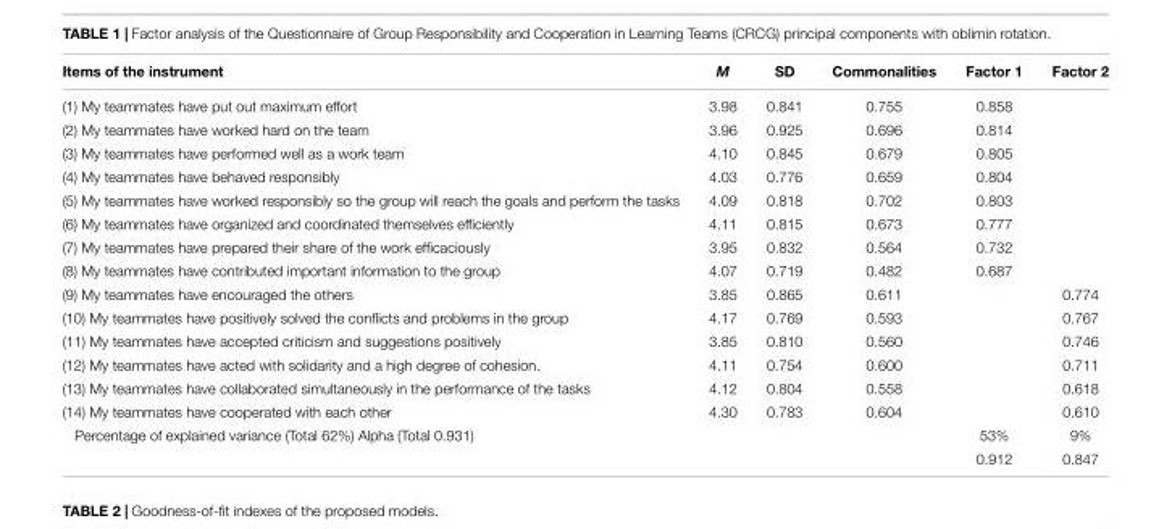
<table><thead><tr><td>Items of the instrument</td><td>M</td><td>SD</td><td>Commonalities</td><td>Factor 1</td><td>Factor 2</td></tr></thead><tbody><tr><td>(1) My teammates have put out maximum effort</td><td>3.98</td><td>0.841</td><td>0.755</td><td>0.858</td><td></td></tr><tr><td>(2) My teammates have worked hard on the team</td><td>3.96</td><td>0.925</td><td>0.696</td><td>0.814</td><td></td></tr><tr><td>(3) My teammates have performed well as a work team</td><td>4.10</td><td>0.845</td><td>0.679</td><td>0.805</td><td></td></tr><tr><td>(4) My teammates have behaved responsibly</td><td>4.03</td><td>0.776</td><td>0.659</td><td>0.804</td><td></td></tr><tr><td>(5) My teammates have worked responsibly so the group will reach the goals and perform the tasks</td><td>4.09</td><td>0.818</td><td>0.702</td><td>0.803</td><td></td></tr><tr><td>(6) My teammates have organized and coordinated themselves efficiently</td><td>4.11</td><td>0.815</td><td>0.673</td><td>0.777</td><td></td></tr><tr><td>(7) My teammates have prepared their share of the work efficaciously</td><td>3.95</td><td>0.832</td><td>0.564</td><td>0.732</td><td></td></tr><tr><td>(8) My teammates have contributed important information to the group</td><td>4.07</td><td>0.719</td><td>0.482</td><td>0.687</td><td></td></tr><tr><td>(9) My teammates have encouraged the others</td><td>3.85</td><td>0.865</td><td>0.611</td><td></td><td>0.774</td></tr><tr><td>(10) My teammates have positively solved the conflicts and problems in the group</td><td>4.17</td><td>0.769</td><td>0.593</td><td></td><td>0.767</td></tr><tr><td>(11) My teammates have accepted criticism and suggestions positively</td><td>3.85</td><td>0.810</td><td>0.560</td><td></td><td>0.746</td></tr><tr><td>(12) My teammates have acted with solidarity and a high degree of cohesion.</td><td>4.11</td><td>0.754</td><td>0.600</td><td></td><td>0.711</td></tr><tr><td>(13) My teammates have collaborated simultaneously in the performance of the tasks</td><td>4.12</td><td>0.804</td><td>0.558</td><td></td><td>0.618</td></tr><tr><td>(14) My teammates have cooperated with each other</td><td>4.30</td><td>0.783</td><td>0.604</td><td></td><td>0.610</td></tr><tr><td rowspan="2" colspan="4">Percentage of explained variance (Total 62%) Alpha (Total 0.931)</td><td>53%</td><td>9%</td></tr><tr><td>0.912</td><td>0.847</td></tr></tbody></table>